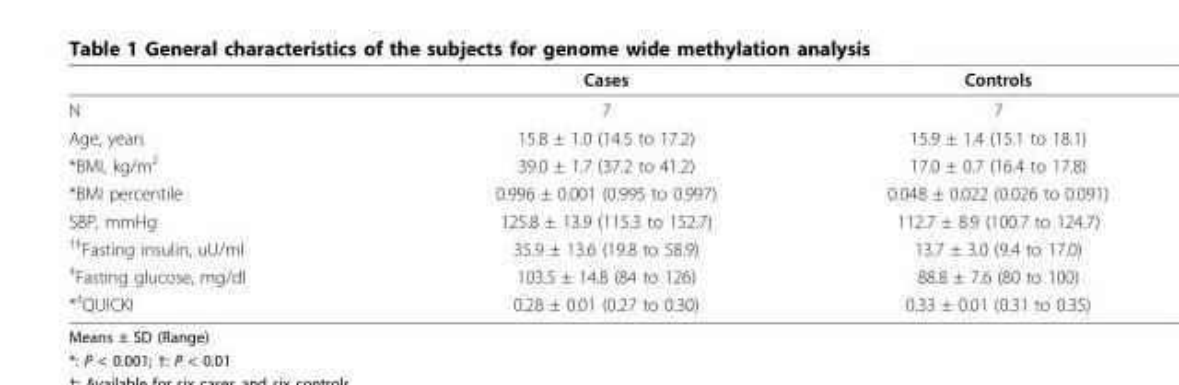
<table><thead><tr><td></td><td>Cases</td><td>Controls</td></tr></thead><tbody><tr><td>N</td><td>7</td><td>7</td></tr><tr><td>Age, years</td><td>15.8 ± 1.0 (14.5 to 17.2)</td><td>15.9 ± 1.4 (15.1 to 18.1)</td></tr><tr><td>*BMI, kg/m<sup>2</sup></td><td>39.0 ± 1.7 (37.2 to 41.2)</td><td>17.0 ± 0.7 (16.4 to 17.8)</td></tr><tr><td>*BMI percentile</td><td>0.996 ± 0.001 (0.995 to 0.997)</td><td>0.048 ± 0.022 (0.026 to 0.091)</td></tr><tr><td>SBP, mmHg</td><td>125.8 ± 13.9 (115.3 to 152.7)</td><td>112.7 ± 8.9 (100.7 to 124.7)</td></tr><tr><td><sup>†‡</sup>Fasting insulin, uU/ml</td><td>35.9 ± 13.6 (19.8 to 58.9)</td><td>13.7 ± 3.0 (9.4 to 17.0)</td></tr><tr><td><sup>‡</sup>Fasting glucose, mg/dl</td><td>103.5 ± 14.8 (84 to 126)</td><td>88.8 ± 7.6 (80 to 100)</td></tr><tr><td>*<sup>‡</sup>QUICKI</td><td>0.28 ± 0.01 (0.27 to 0.30)</td><td>0.33 ± 0.01 (0.31 to 0.35)</td></tr></tbody></table>